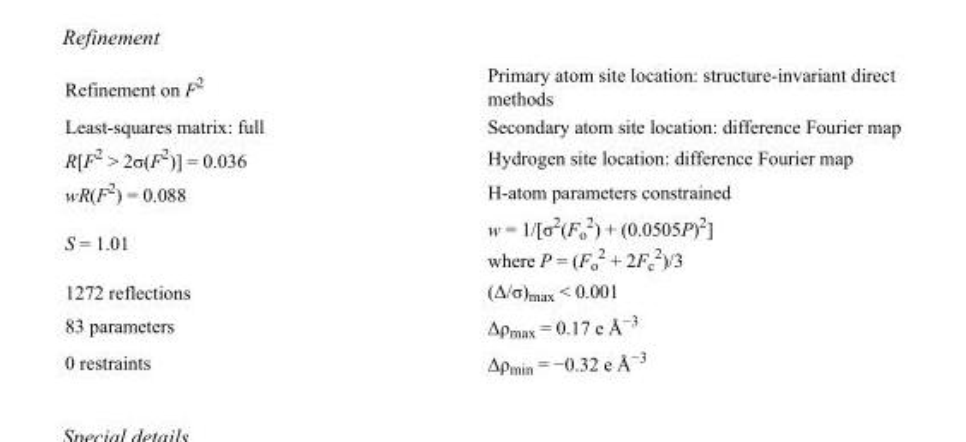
<table><tbody><tr><td>Refinement on F<sup>2</sup></td><td>Primary atom site location: structure-invariant direct methods</td></tr><tr><td>Least-squares matrix: full</td><td>Secondary atom site location: difference Fourier map</td></tr><tr><td>R[F<sup>2</sup> &gt; 2σ(F<sup>2</sup>)] = 0.036</td><td>Hydrogen site location: difference Fourier map</td></tr><tr><td>wR(F<sup>2</sup>) = 0.088</td><td>H-atom parameters constrained</td></tr><tr><td>S = 1.01</td><td>w = 1/[σ<sup>2</sup>(F<sub>o</sub> <sup>2</sup>) + (0.0505P)<sup>2</sup>] where P = (F<sub>o</sub> <sup>2</sup> + 2F<sub>c</sub> <sup>2</sup>)/3</td></tr><tr><td>1272 reflections</td><td>(Δ/σ)<sub>max</sub> &lt; 0.001</td></tr><tr><td>83 parameters</td><td>Δρ<sub>max</sub> = 0.17 e Å<sup>−3</sup></td></tr><tr><td>0 restraints</td><td>Δρ<sub>min</sub> = −0.32 e Å<sup>−3</sup></td></tr></tbody></table>